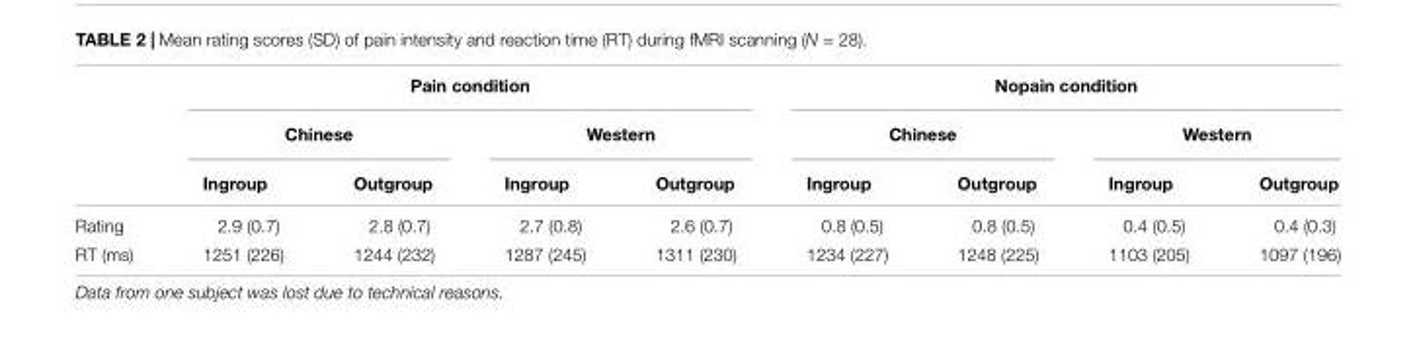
<table><thead><tr><td rowspan="3"></td><td colspan="4">Pain condition</td><td colspan="4">Nopain condition</td></tr><tr><td colspan="2">Chinese</td><td colspan="2">Western</td><td colspan="2">Chinese</td><td colspan="2">Western</td></tr><tr><td>Ingroup</td><td>Outgroup</td><td>Ingroup</td><td>Outgroup</td><td>Ingroup</td><td>Outgroup</td><td>Ingroup</td><td>Outgroup</td></tr></thead><tbody><tr><td>Rating</td><td>2.9 (0.7)</td><td>2.8 (0.7)</td><td>2.7 (0.8)</td><td>2.6 (0.7)</td><td>0.8 (0.5)</td><td>0.8 (0.5)</td><td>0.4 (0.5)</td><td>0.4 (0.3)</td></tr><tr><td>RT (ms)</td><td>1251 (226)</td><td>1244 (232)</td><td>1287 (245)</td><td>1311 (230)</td><td>1234 (227)</td><td>1248 (225)</td><td>1103 (205)</td><td>1097 (196)</td></tr></tbody></table>